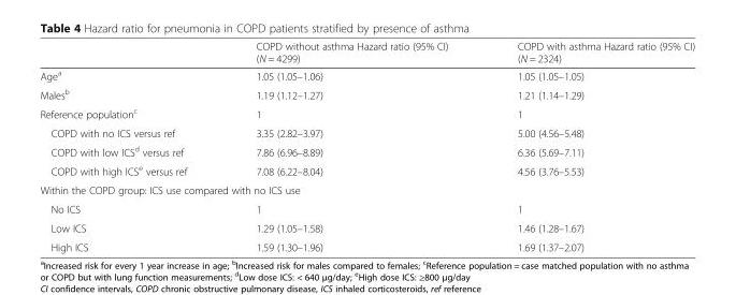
<table><thead><tr><td></td><td>COPD without asthma Hazard ratio (95% CI) (N = 4299)</td><td>COPD with asthma Hazard ratio (95% CI) (N = 2324)</td></tr></thead><tbody><tr><td>Age<sup>a</sup></td><td>1.05 (1.05–1.06)</td><td>1.05 (1.05–1.05)</td></tr><tr><td>Males<sup>b</sup></td><td>1.19 (1.12–1.27)</td><td>1.21 (1.14–1.29)</td></tr><tr><td>Reference population<sup>c</sup></td><td>1</td><td>1</td></tr><tr><td>COPD with no ICS versus ref</td><td>3.35 (2.82–3.97)</td><td>5.00 (4.56–5.48)</td></tr><tr><td>COPD with low ICS<sup>d</sup> versus ref</td><td>7.86 (6.96–8.89)</td><td>6.36 (5.69–7.11)</td></tr><tr><td>COPD with high ICS<sup>e</sup> versus ref</td><td>7.08 (6.22–8.04)</td><td>4.56 (3.76–5.53)</td></tr><tr><td colspan="3">Within the COPD group: ICS use compared with no ICS use</td></tr><tr><td>No ICS</td><td>1</td><td>1</td></tr><tr><td>Low ICS</td><td>1.29 (1.05–1.58)</td><td>1.46 (1.28–1.67)</td></tr><tr><td>High ICS</td><td>1.59 (1.30–1.96)</td><td>1.69 (1.37–2.07)</td></tr></tbody></table>